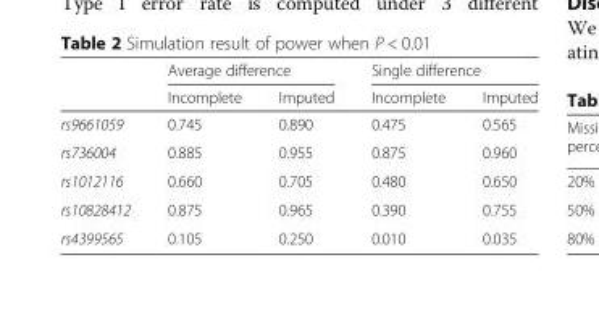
<table><thead><tr><td rowspan="2"></td><td colspan="2">Average difference</td><td colspan="2">Single difference</td></tr><tr><td>Incomplete</td><td>Imputed</td><td>Incomplete</td><td>Imputed</td></tr></thead><tbody><tr><td>rs9661059</td><td>0.745</td><td>0.890</td><td>0.475</td><td>0.565</td></tr><tr><td>rs736004</td><td>0.885</td><td>0.955</td><td>0.875</td><td>0.960</td></tr><tr><td>rs1012116</td><td>0.660</td><td>0.705</td><td>0.480</td><td>0.650</td></tr><tr><td>rs10828412</td><td>0.875</td><td>0.965</td><td>0.390</td><td>0.755</td></tr><tr><td>rs4399565</td><td>0.105</td><td>0.250</td><td>0.010</td><td>0.035</td></tr></tbody></table>